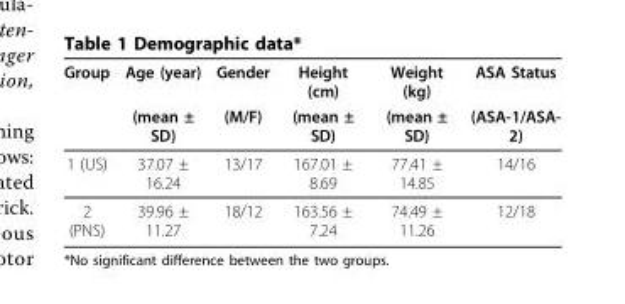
<table><thead><tr><td rowspan="2">Group</td><td rowspan="2">Age (year) (mean ± SD)</td><td rowspan="2">Gender (M/F)</td><td rowspan="2">Height (cm) (mean ± SD)</td><td rowspan="2">Weight (kg) (mean ± SD)</td><td rowspan="2">ASA Status (ASA-1/ASA- 2)</td></tr><tr></tr></thead><tbody><tr><td>1 (US)</td><td>37.07 ± 16.24</td><td>13/17</td><td>167.01 ± 8.69</td><td>77.41 ± 14.85</td><td>14/16</td></tr><tr><td>2 (PNS)</td><td>39.96 ± 11.27</td><td>18/12</td><td>163.56 ± 7.24</td><td>74.49 ± 11.26</td><td>12/18</td></tr></tbody></table>